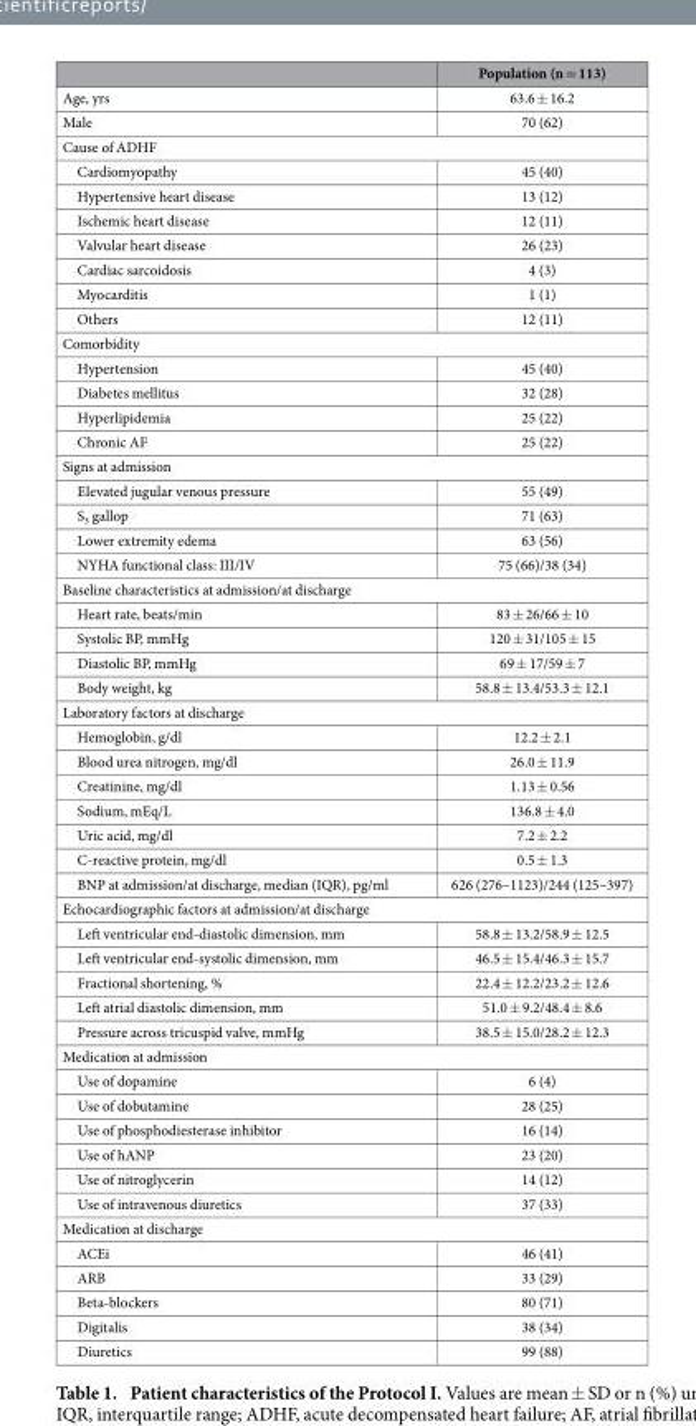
<table><thead><tr><td></td><td>Population (n = 113)</td></tr></thead><tbody><tr><td>Age, yrs</td><td>63.6 ± 16.2</td></tr><tr><td>Male</td><td>70 (62)</td></tr><tr><td colspan="2">Cause of ADHF</td></tr><tr><td>Cardiomyopathy</td><td>45 (40)</td></tr><tr><td>Hypertensive heart disease</td><td>13 (12)</td></tr><tr><td>Ischemic heart disease</td><td>12 (11)</td></tr><tr><td>Valvular heart disease</td><td>26 (23)</td></tr><tr><td>Cardiac sarcoidosis</td><td>4 (3)</td></tr><tr><td>Myocarditis</td><td>1 (1)</td></tr><tr><td>Others</td><td>12 (11)</td></tr><tr><td colspan="2">Comorbidity</td></tr><tr><td>Hypertension</td><td>45 (40)</td></tr><tr><td>Diabetes mellitus</td><td>32 (28)</td></tr><tr><td>Hyperlipidemia</td><td>25 (22)</td></tr><tr><td>Chronic AF</td><td>25 (22)</td></tr><tr><td colspan="2">Signs at admission</td></tr><tr><td>Elevated jugular venous pressure</td><td>55 (49)</td></tr><tr><td>S<sub>3</sub> gallop</td><td>71 (63)</td></tr><tr><td>Lower extremity edema</td><td>63 (56)</td></tr><tr><td>NYHA functional class: III/IV</td><td>75 (66)/38 (34)</td></tr><tr><td colspan="2">Baseline characteristics at admission/at discharge</td></tr><tr><td>Heart rate, beats/min</td><td>83 ± 26/66 ± 10</td></tr><tr><td>Systolic BP, mmHg</td><td>120 ± 31/105 ± 15</td></tr><tr><td>Diastolic BP, mmHg</td><td>69 ± 17/59 ± 7</td></tr><tr><td>Body weight, kg</td><td>58.8 ± 13.4/53.3 ± 12.1</td></tr><tr><td colspan="2">Laboratory factors at discharge</td></tr><tr><td>Hemoglobin, g/dl</td><td>12.2 ± 2.1</td></tr><tr><td>Blood urea nitrogen, mg/dl</td><td>26.0 ± 11.9</td></tr><tr><td>Creatinine, mg/dl</td><td>1.13 ± 0.56</td></tr><tr><td>Sodium, mEq/L</td><td>136.8 ± 4.0</td></tr><tr><td>Uric acid, mg/dl</td><td>7.2 ± 2.2</td></tr><tr><td>C-reactive protein, mg/dl</td><td>0.5 ± 1.3</td></tr><tr><td>BNP at admission/at discharge, median (IQR), pg/ml</td><td>626 (276–1123)/244 (125–397)</td></tr><tr><td colspan="2">Echocardiographic factors at admission/at discharge</td></tr><tr><td>Left ventricular end-diastolic dimension, mm</td><td>58.8 ± 13.2/58.9 ± 12.5</td></tr><tr><td>Left ventricular end-systolic dimension, mm</td><td>46.5 ± 15.4/46.3 ± 15.7</td></tr><tr><td>Fractional shortening, %</td><td>22.4 ± 12.2/23.2 ± 12.6</td></tr><tr><td>Left atrial diastolic dimension, mm</td><td>51.0 ± 9.2/48.4 ± 8.6</td></tr><tr><td>Pressure across tricuspid valve, mmHg</td><td>38.5 ± 15.0/28.2 ± 12.3</td></tr><tr><td colspan="2">Medication at admission</td></tr><tr><td>Use of dopamine</td><td>6 (4)</td></tr><tr><td>Use of dobutamine</td><td>28 (25)</td></tr><tr><td>Use of phosphodiesterase inhibitor</td><td>16 (14)</td></tr><tr><td>Use of hANP</td><td>23 (20)</td></tr><tr><td>Use of nitroglycerin</td><td>14 (12)</td></tr><tr><td>Use of intravenous diuretics</td><td>37 (33)</td></tr><tr><td colspan="2">Medication at discharge</td></tr><tr><td>ACEi</td><td>46 (41)</td></tr><tr><td>ARB</td><td>33 (29)</td></tr><tr><td>Beta-blockers</td><td>80 (71)</td></tr><tr><td>Digitalis</td><td>38 (34)</td></tr><tr><td>Diuretics</td><td>99 (88)</td></tr></tbody></table>